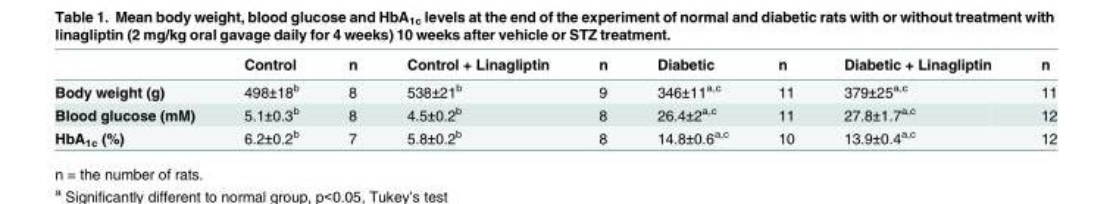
<table><thead><tr><td></td><td>Control</td><td>n</td><td>Control + Linagliptin</td><td>n</td><td>Diabetic</td><td>n</td><td>Diabetic + Linagliptin</td><td>n</td></tr></thead><tbody><tr><td>Body weight (g)</td><td>498±18<sup>b</sup></td><td>8</td><td>538±21<sup>b</sup></td><td>9</td><td>346±11<sup>a,c</sup></td><td>11</td><td>379±25<sup>a,c</sup></td><td>11</td></tr><tr><td>Blood glucose (mM)</td><td>5.1±0.3<sup>b</sup></td><td>8</td><td>4.5±0.2<sup>b</sup></td><td>8</td><td>26.4±2<sup>a,c</sup></td><td>11</td><td>27.8±1.7<sup>a,c</sup></td><td>12</td></tr><tr><td>HbA<sub>1c</sub> (%)</td><td>6.2±0.2<sup>b</sup></td><td>7</td><td>5.8±0.2<sup>b</sup></td><td>8</td><td>14.8±0.6<sup>a,c</sup></td><td>10</td><td>13.9±0.4<sup>a,c</sup></td><td>12</td></tr></tbody></table>